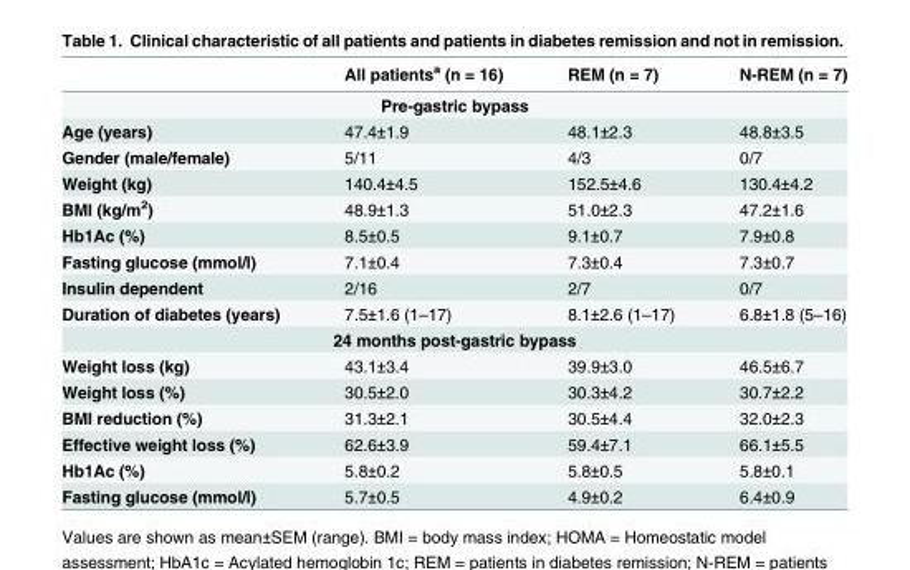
<table><thead><tr><td></td><td>All patients<sup>a</sup> (n = 16)</td><td>REM (n = 7)</td><td>N-REM (n = 7)</td></tr></thead><tbody><tr><td colspan="4">Pre-gastric bypass</td></tr><tr><td>Age (years)</td><td>47.4±1.9</td><td>48.1±2.3</td><td>48.8±3.5</td></tr><tr><td>Gender (male/female)</td><td>5/11</td><td>4/3</td><td>0/7</td></tr><tr><td>Weight (kg)</td><td>140.4±4.5</td><td>152.5±4.6</td><td>130.4±4.2</td></tr><tr><td>BMI (kg/m<sup>2</sup>)</td><td>48.9±1.3</td><td>51.0±2.3</td><td>47.2±1.6</td></tr><tr><td>Hb1Ac (%)</td><td>8.5±0.5</td><td>9.1±0.7</td><td>7.9±0.8</td></tr><tr><td>Fasting glucose (mmol/l)</td><td>7.1±0.4</td><td>7.3±0.4</td><td>7.3±0.7</td></tr><tr><td>Insulin dependent</td><td>2/16</td><td>2/7</td><td>0/7</td></tr><tr><td>Duration of diabetes (years)</td><td>7.5±1.6 (1–17)</td><td>8.1±2.6 (1–17)</td><td>6.8±1.8 (5–16)</td></tr><tr><td colspan="4">24 months post-gastric bypass</td></tr><tr><td>Weight loss (kg)</td><td>43.1±3.4</td><td>39.9±3.0</td><td>46.5±6.7</td></tr><tr><td>Weight loss (%)</td><td>30.5±2.0</td><td>30.3±4.2</td><td>30.7±2.2</td></tr><tr><td>BMI reduction (%)</td><td>31.3±2.1</td><td>30.5±4.4</td><td>32.0±2.3</td></tr><tr><td>Effective weight loss (%)</td><td>62.6±3.9</td><td>59.4±7.1</td><td>66.1±5.5</td></tr><tr><td>Hb1Ac (%)</td><td>5.8±0.2</td><td>5.8±0.5</td><td>5.8±0.1</td></tr><tr><td>Fasting glucose (mmol/l)</td><td>5.7±0.5</td><td>4.9±0.2</td><td>6.4±0.9</td></tr></tbody></table>